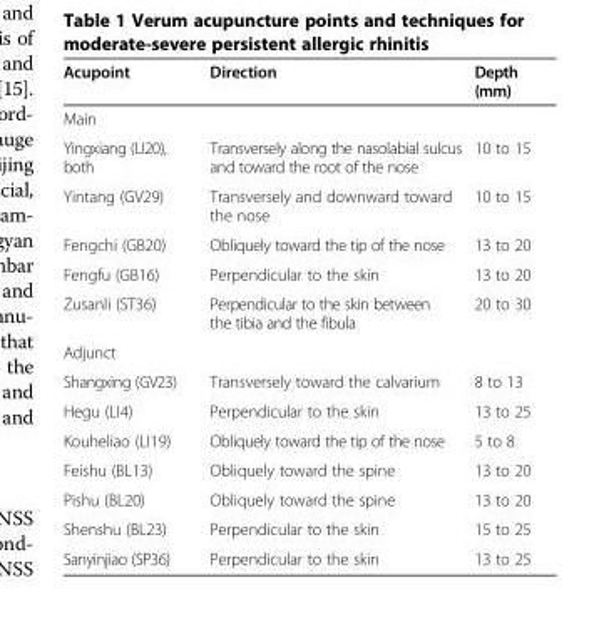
<table><thead><tr><td>Acupoint</td><td>Direction</td><td>Depth (mm)</td></tr></thead><tbody><tr><td colspan="3">Main</td></tr><tr><td>Yingxiang (LI20), both</td><td>Transversely along the nasolabial sulcus and toward the root of the nose</td><td>10 to 15</td></tr><tr><td>Yintang (GV29)</td><td>Transversely and downward toward the nose</td><td>10 to 15</td></tr><tr><td>Fengchi (GB20)</td><td>Obliquely toward the tip of the nose</td><td>13 to 20</td></tr><tr><td>Fengfu (GB16)</td><td>Perpendicular to the skin</td><td>13 to 20</td></tr><tr><td>Zusanli (ST36)</td><td>Perpendicular to the skin between the tibia and the fibula</td><td>20 to 30</td></tr><tr><td colspan="3">Adjunct</td></tr><tr><td>Shangxing (GV23)</td><td>Transversely toward the calvarium</td><td>8 to 13</td></tr><tr><td>Hegu (LI4)</td><td>Perpendicular to the skin</td><td>13 to 25</td></tr><tr><td>Kouheliao (LI19)</td><td>Obliquely toward the tip of the nose</td><td>5 to 8</td></tr><tr><td>Feishu (BL13)</td><td>Obliquely toward the spine</td><td>13 to 20</td></tr><tr><td>Pishu (BL20)</td><td>Obliquely toward the spine</td><td>13 to 20</td></tr><tr><td>Shenshu (BL23)</td><td>Perpendicular to the skin</td><td>15 to 25</td></tr><tr><td>Sanyinjiao (SP36)</td><td>Perpendicular to the skin</td><td>13 to 25</td></tr></tbody></table>